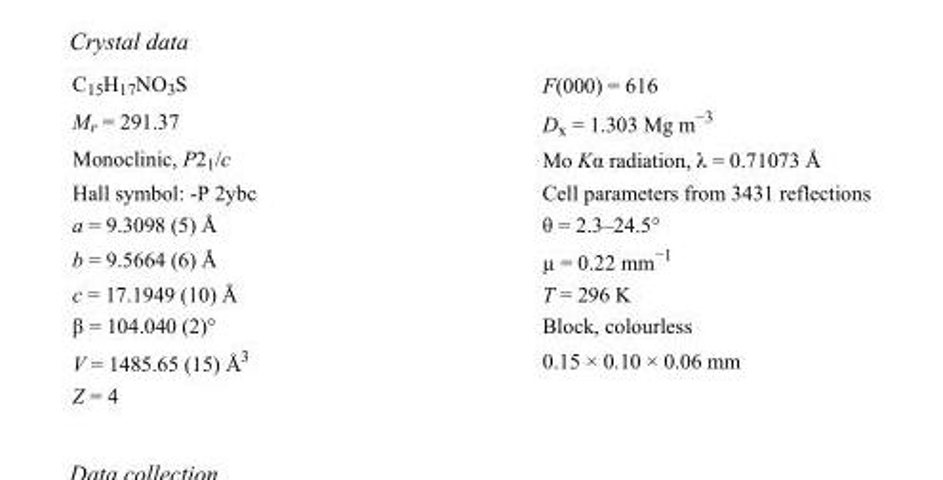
<table><tbody><tr><td>C<sub>15</sub>H<sub>17</sub>NO<sub>3</sub>S</td><td>F(000) = 616</td></tr><tr><td>M<sub>r</sub> = 291.37</td><td>D<sub>x</sub> = 1.303 Mg m<sup>−3</sup></td></tr><tr><td>Monoclinic, P2<sub>1</sub>/c</td><td>Mo Kα radiation, λ = 0.71073 Å</td></tr><tr><td>Hall symbol: -P 2ybc</td><td>Cell parameters from 3431 reflections</td></tr><tr><td>a = 9.3098 (5) Å</td><td>θ = 2.3–24.5°</td></tr><tr><td>b = 9.5664 (6) Å</td><td>µ = 0.22 mm<sup>−1</sup></td></tr><tr><td>c = 17.1949 (10) Å</td><td>T = 296 K</td></tr><tr><td>β = 104.040 (2)°</td><td>Block, colourless</td></tr><tr><td>V = 1485.65 (15) Å<sup>3</sup></td><td>0.15 × 0.10 × 0.06 mm</td></tr><tr><td>Z = 4</td><td></td></tr></tbody></table>